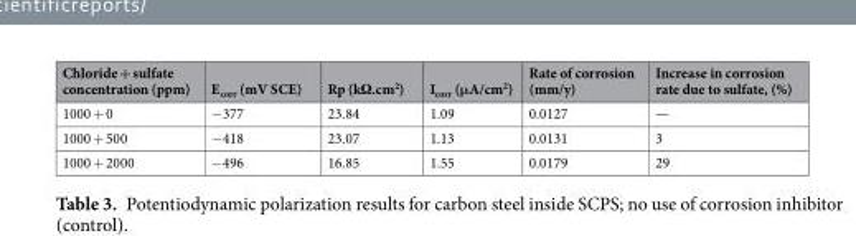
<table><thead><tr><td>Chloride + sulfate concentration (ppm)</td><td>E<sub>corr</sub> (mV SCE)</td><td>Rp (kΩ.cm<sup>2</sup>)</td><td>I<sub>corr</sub> (μA/cm<sup>2</sup>)</td><td>Rate of corrosion (mm/y)</td><td>Increase in corrosion rate due to sulfate, (%)</td></tr></thead><tbody><tr><td>1000 + 0</td><td>−377</td><td>23.84</td><td>1.09</td><td>0.0127</td><td>—</td></tr><tr><td>1000 + 500</td><td>−418</td><td>23.07</td><td>1.13</td><td>0.0131</td><td>3</td></tr><tr><td>1000 + 2000</td><td>−496</td><td>16.85</td><td>1.55</td><td>0.0179</td><td>29</td></tr></tbody></table>